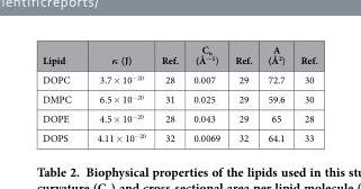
<table><thead><tr><td>Lipid</td><td>κ (J)</td><td>Ref.</td><td>C<sub>o</sub> (Å<sup>−1</sup>)</td><td>Ref.</td><td>A (Å<sup>2</sup>)</td><td>Ref.</td></tr></thead><tbody><tr><td>DOPC</td><td>3.7 × 10<sup>−20</sup></td><td>28</td><td>0.007</td><td>29</td><td>72.7</td><td>30</td></tr><tr><td>DMPC</td><td>6.5 × 10<sup>−20</sup></td><td>31</td><td>0.025</td><td>29</td><td>59.6</td><td>30</td></tr><tr><td>DOPE</td><td>4.5 × 10<sup>−20</sup></td><td>28</td><td>0.043</td><td>29</td><td>65</td><td>28</td></tr><tr><td>DOPS</td><td>4.11 × 10<sup>−20</sup></td><td>32</td><td>0.0069</td><td>32</td><td>64.1</td><td>33</td></tr></tbody></table>